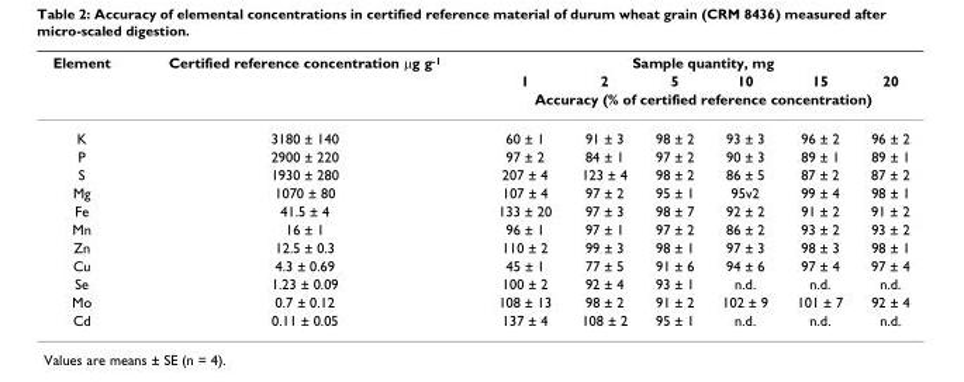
<table><thead><tr><td rowspan="3">Element</td><td rowspan="3">Certified reference concentration μg g<sup>-1</sup></td><td colspan="6">Sample quantity, mg</td></tr><tr><td>1</td><td>2</td><td>5</td><td>10</td><td>15</td><td>20</td></tr><tr><td colspan="6">Accuracy (% of certified reference concentration)</td></tr></thead><tbody><tr><td>K</td><td>3180 ± 140</td><td>60 ± 1</td><td>91 ± 3</td><td>98 ± 2</td><td>93 ± 3</td><td>96 ± 2</td><td>96 ± 2</td></tr><tr><td>P</td><td>2900 ± 220</td><td>97 ± 2</td><td>84 ± 1</td><td>97 ± 2</td><td>90 ± 3</td><td>89 ± 1</td><td>89 ± 1</td></tr><tr><td>S</td><td>1930 ± 280</td><td>207 ± 4</td><td>123 ± 4</td><td>98 ± 2</td><td>86 ± 5</td><td>87 ± 2</td><td>87 ± 2</td></tr><tr><td>Mg</td><td>1070 ± 80</td><td>107 ± 4</td><td>97 ± 2</td><td>95 ± 1</td><td>95v2</td><td>99 ± 4</td><td>98 ± 1</td></tr><tr><td>Fe</td><td>41.5 ± 4</td><td>133 ± 20</td><td>97 ± 3</td><td>98 ± 7</td><td>92 ± 2</td><td>91 ± 2</td><td>91 ± 2</td></tr><tr><td>Mn</td><td>16 ± 1</td><td>96 ± 1</td><td>97 ± 1</td><td>97 ± 2</td><td>86 ± 2</td><td>93 ± 2</td><td>93 ± 2</td></tr><tr><td>Zn</td><td>12.5 ± 0.3</td><td>110 ± 2</td><td>99 ± 3</td><td>98 ± 1</td><td>97 ± 3</td><td>98 ± 3</td><td>98 ± 1</td></tr><tr><td>Cu</td><td>4.3 ± 0.69</td><td>45 ± 1</td><td>77 ± 5</td><td>91 ± 6</td><td>94 ± 6</td><td>97 ± 4</td><td>97 ± 4</td></tr><tr><td>Se</td><td>1.23 ± 0.09</td><td>100 ± 2</td><td>92 ± 4</td><td>93 ± 1</td><td>n.d.</td><td>n.d.</td><td>n.d.</td></tr><tr><td>Mo</td><td>0.7 ± 0.12</td><td>108 ± 13</td><td>98 ± 2</td><td>91 ± 2</td><td>102 ± 9</td><td>101 ± 7</td><td>92 ± 4</td></tr><tr><td>Cd</td><td>0.11 ± 0.05</td><td>137 ± 4</td><td>108 ± 2</td><td>95 ± 1</td><td>n.d.</td><td>n.d.</td><td>n.d.</td></tr></tbody></table>